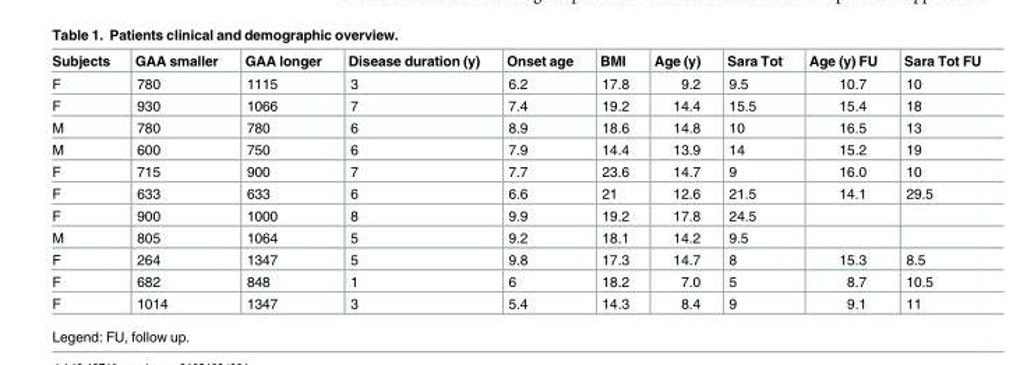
<table><thead><tr><td>Subjects</td><td>GAA smaller</td><td>GAA longer</td><td>Disease duration (y)</td><td>Onset age</td><td>BMI</td><td>Age (y)</td><td>Sara Tot</td><td>Age (y) FU</td><td>Sara Tot FU</td></tr></thead><tbody><tr><td>F</td><td>780</td><td>1115</td><td>3</td><td>6.2</td><td>17.8</td><td>9.2</td><td>9.5</td><td>10.7</td><td>10</td></tr><tr><td>F</td><td>930</td><td>1066</td><td>7</td><td>7.4</td><td>19.2</td><td>14.4</td><td>15.5</td><td>15.4</td><td>18</td></tr><tr><td>M</td><td>780</td><td>780</td><td>6</td><td>8.9</td><td>18.6</td><td>14.8</td><td>10</td><td>16.5</td><td>13</td></tr><tr><td>M</td><td>600</td><td>750</td><td>6</td><td>7.9</td><td>14.4</td><td>13.9</td><td>14</td><td>15.2</td><td>19</td></tr><tr><td>F</td><td>715</td><td>900</td><td>7</td><td>7.7</td><td>23.6</td><td>14.7</td><td>9</td><td>16.0</td><td>10</td></tr><tr><td>F</td><td>633</td><td>633</td><td>6</td><td>6.6</td><td>21</td><td>12.6</td><td>21.5</td><td>14.1</td><td>29.5</td></tr><tr><td>F</td><td>900</td><td>1000</td><td>8</td><td>9.9</td><td>19.2</td><td>17.8</td><td>24.5</td><td></td><td></td></tr><tr><td>M</td><td>805</td><td>1064</td><td>5</td><td>9.2</td><td>18.1</td><td>14.2</td><td>9.5</td><td></td><td></td></tr><tr><td>F</td><td>264</td><td>1347</td><td>5</td><td>9.8</td><td>17.3</td><td>14.7</td><td>8</td><td>15.3</td><td>8.5</td></tr><tr><td>F</td><td>682</td><td>848</td><td>1</td><td>6</td><td>18.2</td><td>7.0</td><td>5</td><td>8.7</td><td>10.5</td></tr><tr><td>F</td><td>1014</td><td>1347</td><td>3</td><td>5.4</td><td>14.3</td><td>8.4</td><td>9</td><td>9.1</td><td>11</td></tr></tbody></table>